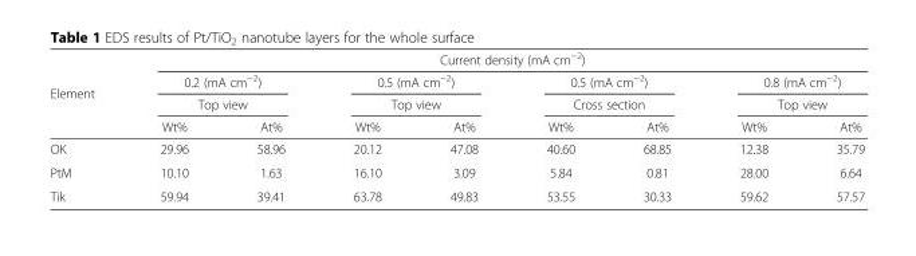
<table><thead><tr><td rowspan="4">Element</td><td colspan="8">Current density (mA cm<sup>−2</sup>)</td></tr><tr><td rowspan="2" colspan="2">0.2 (mA cm<sup>−2</sup>) Top view</td><td rowspan="2" colspan="2">0.5 (mA cm<sup>−2</sup>) Top view</td><td rowspan="2" colspan="2">0.5 (mA cm<sup>−2</sup>) Cross section</td><td rowspan="2" colspan="2">0.8 (mA cm<sup>−2</sup>) Top view</td></tr><tr></tr><tr><td>Wt%</td><td>At%</td><td>Wt%</td><td>At%</td><td>Wt%</td><td>At%</td><td>Wt%</td><td>At%</td></tr></thead><tbody><tr><td>OK</td><td>29.96</td><td>58.96</td><td>20.12</td><td>47.08</td><td>40.60</td><td>68.85</td><td>12.38</td><td>35.79</td></tr><tr><td>PtM</td><td>10.10</td><td>1.63</td><td>16.10</td><td>3.09</td><td>5.84</td><td>0.81</td><td>28.00</td><td>6.64</td></tr><tr><td>Tik</td><td>59.94</td><td>39.41</td><td>63.78</td><td>49.83</td><td>53.55</td><td>30.33</td><td>59.62</td><td>57.57</td></tr></tbody></table>